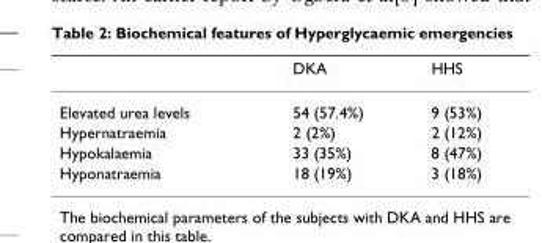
<table><thead><tr><td></td><td>DKA</td><td>HHS</td></tr></thead><tbody><tr><td>Elevated urea levels</td><td>54 (57.4%)</td><td>9 (53%)</td></tr><tr><td>Hypernatraemia</td><td>2 (2%)</td><td>2 (12%)</td></tr><tr><td>Hypokalaemia</td><td>33 (35%)</td><td>8 (47%)</td></tr><tr><td>Hyponatraemia</td><td>18 (19%)</td><td>3 (18%)</td></tr></tbody></table>